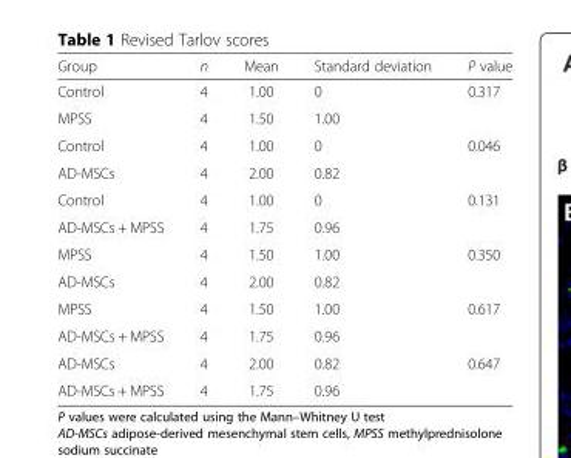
<table><thead><tr><td>Group</td><td>n</td><td>Mean</td><td>Standard deviation</td><td>P value</td></tr></thead><tbody><tr><td>Control</td><td>4</td><td>1.00</td><td>0</td><td rowspan="2">0.317</td></tr><tr><td>MPSS</td><td>4</td><td>1.50</td><td>1.00</td></tr><tr><td>Control</td><td>4</td><td>1.00</td><td>0</td><td rowspan="2">0.046</td></tr><tr><td>AD-MSCs</td><td>4</td><td>2.00</td><td>0.82</td></tr><tr><td>Control</td><td>4</td><td>1.00</td><td>0</td><td rowspan="2">0.131</td></tr><tr><td>AD-MSCs + MPSS</td><td>4</td><td>1.75</td><td>0.96</td></tr><tr><td>MPSS</td><td>4</td><td>1.50</td><td>1.00</td><td rowspan="2">0.350</td></tr><tr><td>AD-MSCs</td><td>4</td><td>2.00</td><td>0.82</td></tr><tr><td>MPSS</td><td>4</td><td>1.50</td><td>1.00</td><td rowspan="2">0.617</td></tr><tr><td>AD-MSCs + MPSS</td><td>4</td><td>1.75</td><td>0.96</td></tr><tr><td>AD-MSCs</td><td>4</td><td>2.00</td><td>0.82</td><td rowspan="2">0.647</td></tr><tr><td>AD-MSCs + MPSS</td><td>4</td><td>1.75</td><td>0.96</td></tr></tbody></table>